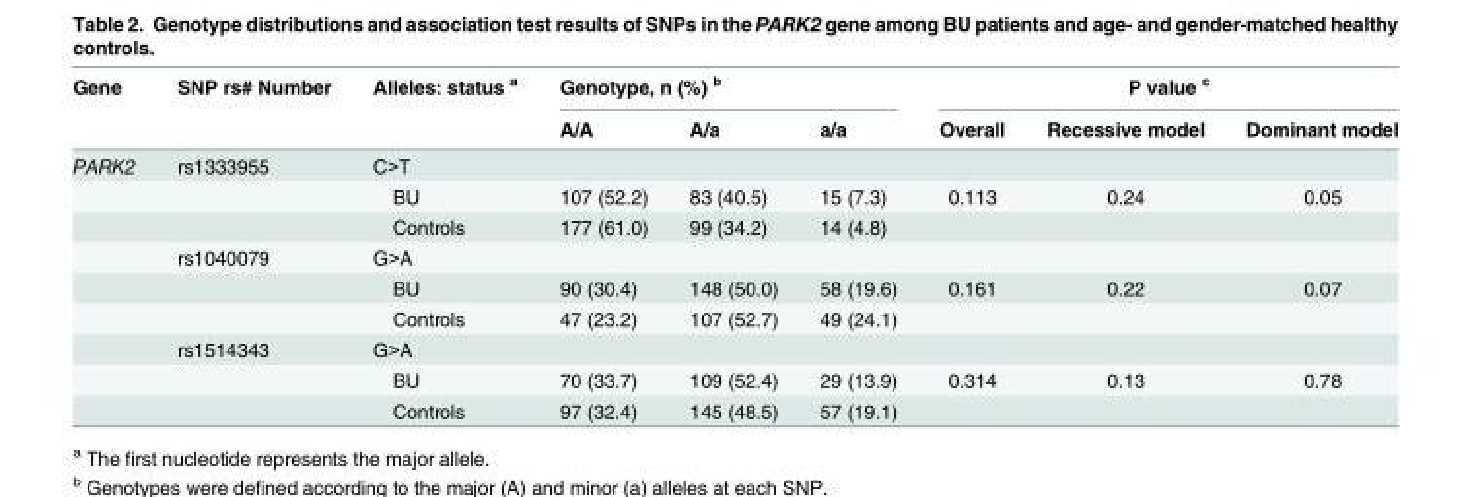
<table><thead><tr><td rowspan="2">Gene</td><td rowspan="2">SNP rs# Number</td><td rowspan="2">Alleles: status <sup>a</sup></td><td colspan="3">Genotype, n (%) <sup>b</sup></td><td colspan="3">P value <sup>c</sup></td></tr><tr><td>A/A</td><td>A/a</td><td>a/a</td><td>Overall</td><td>Recessive model</td><td>Dominant model</td></tr></thead><tbody><tr><td rowspan="9">PARK2</td><td>rs1333955</td><td>C&gt;T</td><td></td><td></td><td></td><td></td><td></td><td></td></tr><tr><td></td><td>BU</td><td>107 (52.2)</td><td>83 (40.5)</td><td>15 (7.3)</td><td>0.113</td><td>0.24</td><td>0.05</td></tr><tr><td></td><td>Controls</td><td>177 (61.0)</td><td>99 (34.2)</td><td>14 (4.8)</td><td></td><td></td><td></td></tr><tr><td>rs1040079</td><td>G&gt;A</td><td></td><td></td><td></td><td></td><td></td><td></td></tr><tr><td></td><td>BU</td><td>90 (30.4)</td><td>148 (50.0)</td><td>58 (19.6)</td><td>0.161</td><td>0.22</td><td>0.07</td></tr><tr><td></td><td>Controls</td><td>47 (23.2)</td><td>107 (52.7)</td><td>49 (24.1)</td><td></td><td></td><td></td></tr><tr><td>rs1514343</td><td>G&gt;A</td><td></td><td></td><td></td><td></td><td></td><td></td></tr><tr><td></td><td>BU</td><td>70 (33.7)</td><td>109 (52.4)</td><td>29 (13.9)</td><td>0.314</td><td>0.13</td><td>0.78</td></tr><tr><td></td><td>Controls</td><td>97 (32.4)</td><td>145 (48.5)</td><td>57 (19.1)</td><td></td><td></td><td></td></tr></tbody></table>